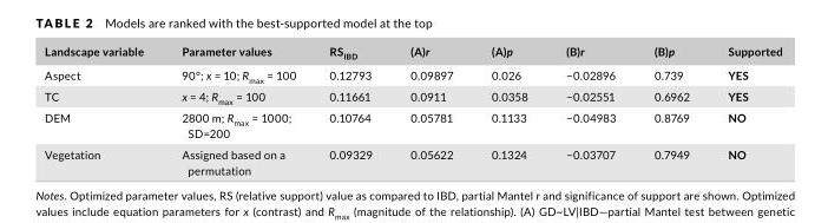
<table><thead><tr><td>Landscape variable</td><td>Parameter values</td><td>RS<sub>IBD</sub></td><td>(A)r</td><td>(A)p</td><td>(B)r</td><td>(B)p</td><td>Supported</td></tr></thead><tbody><tr><td>Aspect</td><td>90°; x = 10; R<sub>max</sub> = 100</td><td>0.12793</td><td>0.09897</td><td>0.026</td><td>−0.02896</td><td>0.739</td><td>YES</td></tr><tr><td>TC</td><td>x = 4; R<sub>max</sub> = 100</td><td>0.11661</td><td>0.0911</td><td>0.0358</td><td>−0.02551</td><td>0.6962</td><td>YES</td></tr><tr><td>DEM</td><td>2800 m; R<sub>max</sub> = 1000; SD=200</td><td>0.10764</td><td>0.05781</td><td>0.1133</td><td>−0.04983</td><td>0.8769</td><td>NO</td></tr><tr><td>Vegetation</td><td>Assigned based on a permutation</td><td>0.09329</td><td>0.05622</td><td>0.1324</td><td>−0.03707</td><td>0.7949</td><td>NO</td></tr></tbody></table>